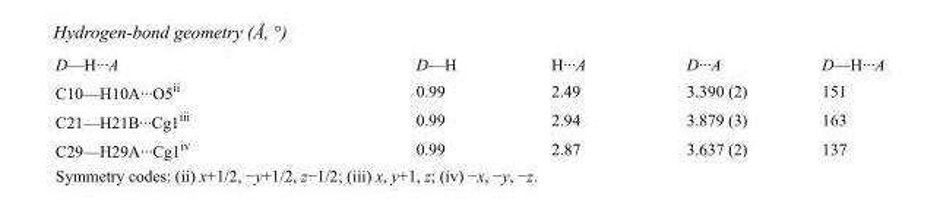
<table><tbody><tr><td>D—H···A</td><td>D—H</td><td>H···A</td><td>D···A</td><td>D—H···A</td></tr><tr><td>C10—H10A···O5<sup>ii</sup></td><td>0.99</td><td>2.49</td><td>3.390 (2)</td><td>151</td></tr><tr><td>C21—H21B···Cg1<sup>iii</sup></td><td>0.99</td><td>2.94</td><td>3.879 (3)</td><td>163</td></tr><tr><td>C29—H29A···Cg1<sup>iv</sup></td><td>0.99</td><td>2.87</td><td>3.637 (2)</td><td>137</td></tr></tbody></table>